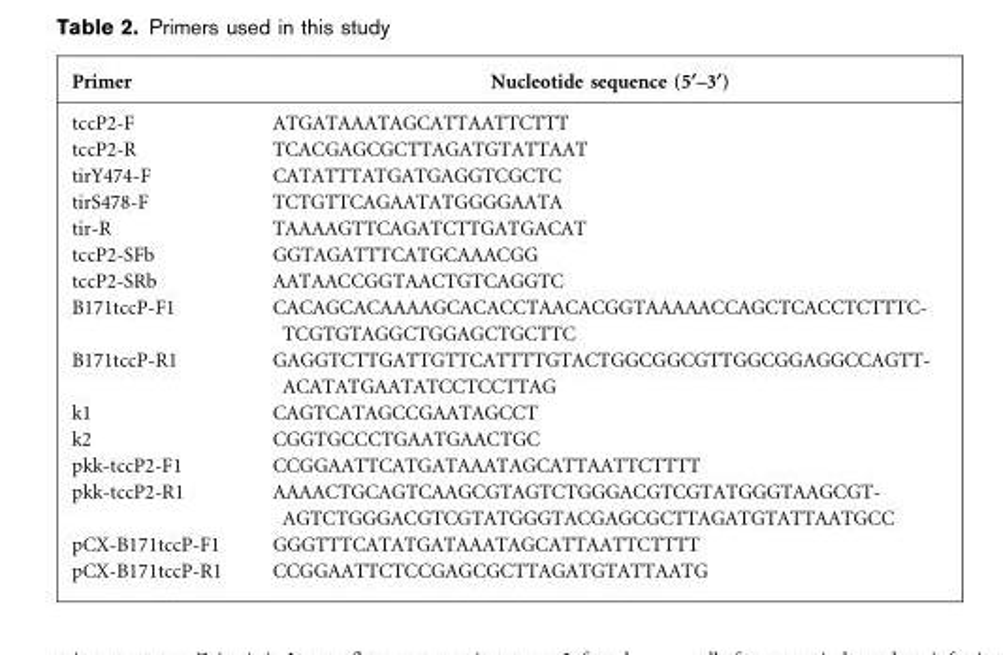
<table><thead><tr><td>Primer</td><td>Nucleotide sequence (5§–3§)</td></tr></thead><tbody><tr><td>tccP2-F</td><td>ATGATAAATAGCATTAATTCTTT</td></tr><tr><td>tccP2-R</td><td>TCACGAGCGCTTAGATGTATTAAT</td></tr><tr><td>tirY474-F</td><td>CATATTTATGATGAGGTCGCTC</td></tr><tr><td>tirS478-F</td><td>TCTGTTCAGAATATGGGGAATA</td></tr><tr><td>tir-R</td><td>TAAAAGTTCAGATCTTGATGACAT</td></tr><tr><td>tccP2-SFb</td><td>GGTAGATTTCATGCAAACGG</td></tr><tr><td>tccP2-SRb</td><td>AATAACCGGTAACTGTCAGGTC</td></tr><tr><td>B171tccP-F1</td><td>CACAGCACAAAAGCACACCTAACACGGTAAAAACCAGCTCACCTCTTTC- TCGTGTAGGCTGGAGCTGCTTC</td></tr><tr><td>B171tccP-R1</td><td>GAGGTCTTGATTGTTCATTTTGTACTGGCGGCGTTGGCGGAGGCCAGTT- ACATATGAATATCCTCCTTAG</td></tr><tr><td>k1</td><td>CAGTCATAGCCGAATAGCCT</td></tr><tr><td>k2</td><td>CGGTGCCCTGAATGAACTGC</td></tr><tr><td>pkk-tccP2-F1</td><td>CCGGAATTCATGATAAATAGCATTAATTCTTTT</td></tr><tr><td>pkk-tccP2-R1</td><td>AAAACTGCAGTCAAGCGTAGTCTGGGACGTCGTATGGGTAAGCGT- AGTCTGGGACGTCGTATGGGTACGAGCGCTTAGATGTATTAATGCC</td></tr><tr><td>pCX-B171tccP-F1</td><td>GGGTTTCATATGATAAATAGCATTAATTCTTTT</td></tr><tr><td>pCX-B171tccP-R1</td><td>CCGGAATTCTCCGAGCGCTTAGATGTATTAATG</td></tr></tbody></table>